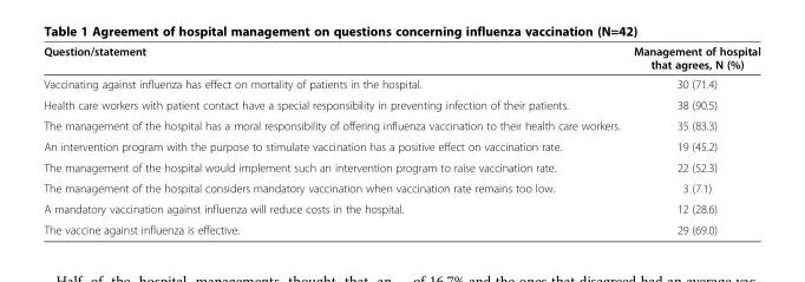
<table><thead><tr><td>Question/statement</td><td>Management of hospital that agrees, N (%)</td></tr></thead><tbody><tr><td>Vaccinating against influenza has effect on mortality of patients in the hospital.</td><td>30 (71.4)</td></tr><tr><td>Health care workers with patient contact have a special responsibility in preventing infection of their patients.</td><td>38 (90.5)</td></tr><tr><td>The management of the hospital has a moral responsibility of offering influenza vaccination to their health care workers.</td><td>35 (83.3)</td></tr><tr><td>An intervention program with the purpose to stimulate vaccination has a positive effect on vaccination rate.</td><td>19 (45.2)</td></tr><tr><td>The management of the hospital would implement such an intervention program to raise vaccination rate.</td><td>22 (52.3)</td></tr><tr><td>The management of the hospital considers mandatory vaccination when vaccination rate remains too low.</td><td>3 (7.1)</td></tr><tr><td>A mandatory vaccination against influenza will reduce costs in the hospital.</td><td>12 (28.6)</td></tr><tr><td>The vaccine against influenza is effective.</td><td>29 (69.0)</td></tr></tbody></table>